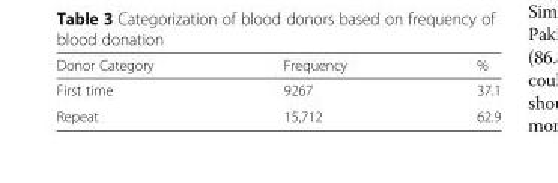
<table><thead><tr><td>Donor Category</td><td>Frequency</td><td>%</td></tr></thead><tbody><tr><td>First time</td><td>9267</td><td>37.1</td></tr><tr><td>Repeat</td><td>15,712</td><td>62.9</td></tr></tbody></table>